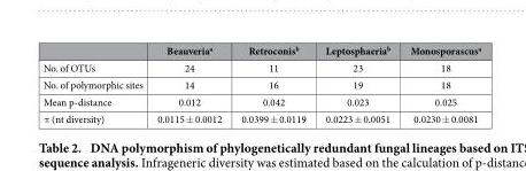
<table><thead><tr><td></td><td>Beauveria<sup>a</sup></td><td>Retroconis<sup>b</sup></td><td>Leptosphaeria<sup>b</sup></td><td>Monosporascus<sup>a</sup></td></tr></thead><tbody><tr><td>No. of OTUs</td><td>24</td><td>11</td><td>23</td><td>18</td></tr><tr><td>No. of polymorphic sites</td><td>14</td><td>16</td><td>19</td><td>18</td></tr><tr><td>Mean p-distance</td><td>0.012</td><td>0.042</td><td>0.023</td><td>0.025</td></tr><tr><td>π (nt diversity)</td><td>0.0115 ± 0.0012</td><td>0.0399 ± 0.0119</td><td>0.0223 ± 0.0051</td><td>0.0230 ± 0.0081</td></tr></tbody></table>